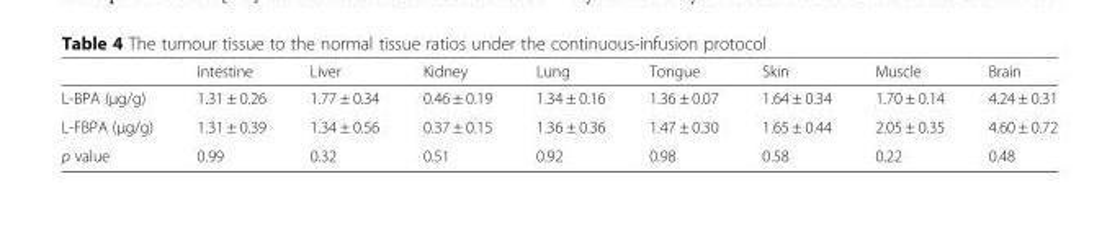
<table><thead><tr><td></td><td>Intestine</td><td>Liver</td><td>Kidney</td><td>Lung</td><td>Tongue</td><td>Skin</td><td>Muscle</td><td>Brain</td></tr></thead><tbody><tr><td>L-BPA (μg/g)</td><td>1.31 ± 0.26</td><td>1.77 ± 0.34</td><td>0.46 ± 0.19</td><td>1.34 ± 0.16</td><td>1.36 ± 0.07</td><td>1.64 ± 0.34</td><td>1.70 ± 0.14</td><td>4.24 ± 0.31</td></tr><tr><td>L-FBPA (μg/g)</td><td>1.31 ± 0.39</td><td>1.34 ± 0.56</td><td>0.37 ± 0.15</td><td>1.36 ± 0.36</td><td>1.47 ± 0.30</td><td>1.65 ± 0.44</td><td>2.05 ± 0.35</td><td>4.60 ± 0.72</td></tr><tr><td>p value</td><td>0.99</td><td>0.32</td><td>0.51</td><td>0.92</td><td>0.98</td><td>0.58</td><td>0.22</td><td>0.48</td></tr></tbody></table>